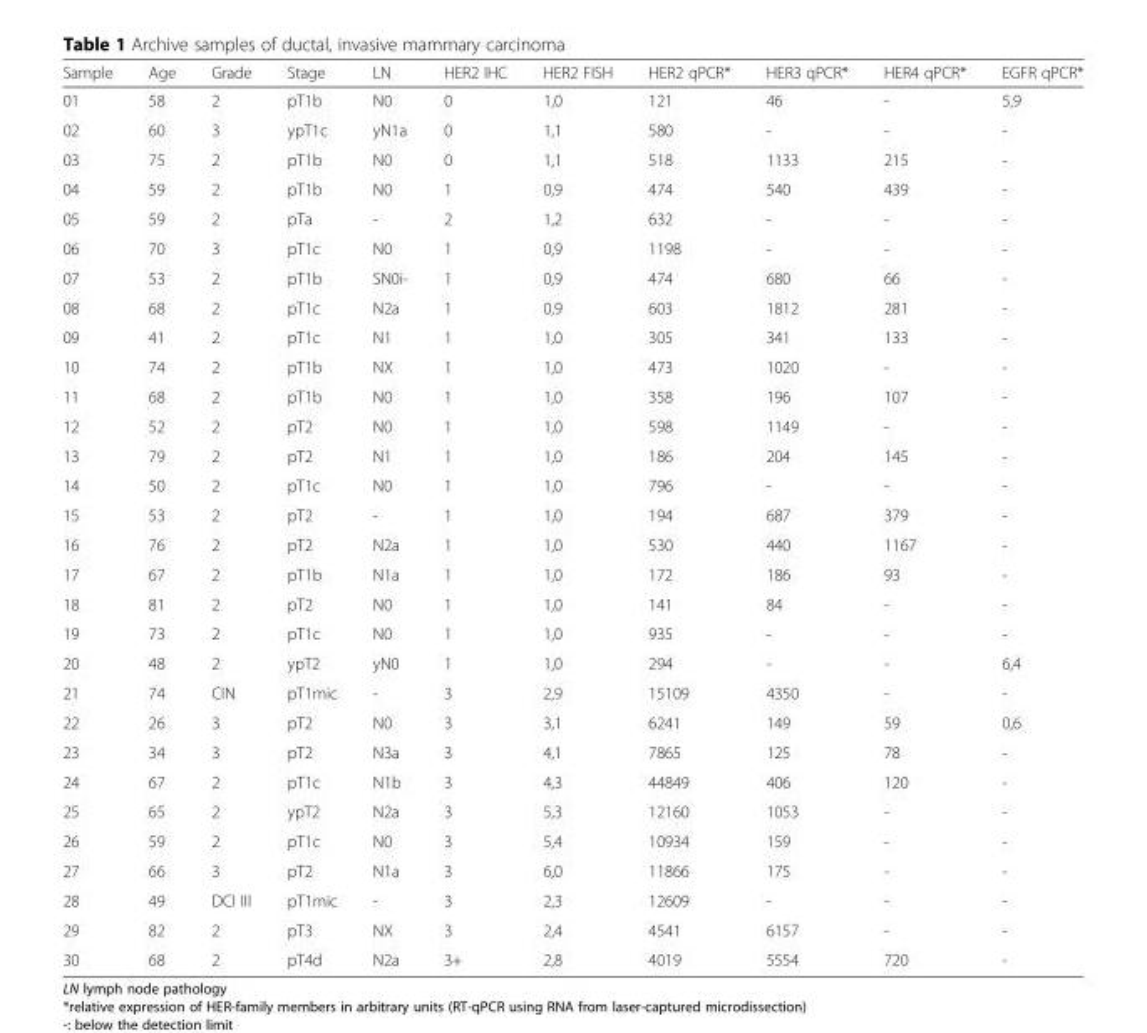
<table><thead><tr><td>Sample</td><td>Age</td><td>Grade</td><td>Stage</td><td>LN</td><td>HER2 IHC</td><td>HER2 FISH</td><td>HER2 qPCR*</td><td>HER3 qPCR*</td><td>HER4 qPCR*</td><td>EGFR qPCR*</td></tr></thead><tbody><tr><td>01</td><td>58</td><td>2</td><td>pT1b</td><td>N0</td><td>0</td><td>1,0</td><td>121</td><td>46</td><td>-</td><td>5,9</td></tr><tr><td>02</td><td>60</td><td>3</td><td>ypT1c</td><td>yN1a</td><td>0</td><td>1,1</td><td>580</td><td>-</td><td>-</td><td>-</td></tr><tr><td>03</td><td>75</td><td>2</td><td>pT1b</td><td>N0</td><td>0</td><td>1,1</td><td>518</td><td>1133</td><td>215</td><td>-</td></tr><tr><td>04</td><td>59</td><td>2</td><td>pT1b</td><td>N0</td><td>1</td><td>0,9</td><td>474</td><td>540</td><td>439</td><td>-</td></tr><tr><td>05</td><td>59</td><td>2</td><td>pTa</td><td>-</td><td>2</td><td>1,2</td><td>632</td><td>-</td><td>-</td><td>-</td></tr><tr><td>06</td><td>70</td><td>3</td><td>pT1c</td><td>N0</td><td>1</td><td>0,9</td><td>1198</td><td>-</td><td>-</td><td>-</td></tr><tr><td>07</td><td>53</td><td>2</td><td>pT1b</td><td>SN0i-</td><td>1</td><td>0,9</td><td>474</td><td>680</td><td>66</td><td>-</td></tr><tr><td>08</td><td>68</td><td>2</td><td>pT1c</td><td>N2a</td><td>1</td><td>0,9</td><td>603</td><td>1812</td><td>281</td><td>-</td></tr><tr><td>09</td><td>41</td><td>2</td><td>pT1c</td><td>N1</td><td>1</td><td>1,0</td><td>305</td><td>341</td><td>133</td><td>-</td></tr><tr><td>10</td><td>74</td><td>2</td><td>pT1b</td><td>NX</td><td>1</td><td>1,0</td><td>473</td><td>1020</td><td>-</td><td>-</td></tr><tr><td>11</td><td>68</td><td>2</td><td>pT1b</td><td>N0</td><td>1</td><td>1,0</td><td>358</td><td>196</td><td>107</td><td>-</td></tr><tr><td>12</td><td>52</td><td>2</td><td>pT2</td><td>N0</td><td>1</td><td>1,0</td><td>598</td><td>1149</td><td>-</td><td>-</td></tr><tr><td>13</td><td>79</td><td>2</td><td>pT2</td><td>N1</td><td>1</td><td>1,0</td><td>186</td><td>204</td><td>145</td><td>-</td></tr><tr><td>14</td><td>50</td><td>2</td><td>pT1c</td><td>N0</td><td>1</td><td>1,0</td><td>796</td><td>-</td><td>-</td><td>-</td></tr><tr><td>15</td><td>53</td><td>2</td><td>pT2</td><td>-</td><td>1</td><td>1,0</td><td>194</td><td>687</td><td>379</td><td>-</td></tr><tr><td>16</td><td>76</td><td>2</td><td>pT2</td><td>N2a</td><td>1</td><td>1,0</td><td>530</td><td>440</td><td>1167</td><td>-</td></tr><tr><td>17</td><td>67</td><td>2</td><td>pT1b</td><td>N1a</td><td>1</td><td>1,0</td><td>172</td><td>186</td><td>93</td><td>-</td></tr><tr><td>18</td><td>81</td><td>2</td><td>pT2</td><td>N0</td><td>1</td><td>1,0</td><td>141</td><td>84</td><td>-</td><td>-</td></tr><tr><td>19</td><td>73</td><td>2</td><td>pT1c</td><td>N0</td><td>1</td><td>1,0</td><td>935</td><td>-</td><td>-</td><td>-</td></tr><tr><td>20</td><td>48</td><td>2</td><td>ypT2</td><td>yN0</td><td>1</td><td>1,0</td><td>294</td><td>-</td><td>-</td><td>6,4</td></tr><tr><td>21</td><td>74</td><td>CIN</td><td>pT1mic</td><td>-</td><td>3</td><td>2,9</td><td>15109</td><td>4350</td><td>-</td><td>-</td></tr><tr><td>22</td><td>26</td><td>3</td><td>pT2</td><td>N0</td><td>3</td><td>3,1</td><td>6241</td><td>149</td><td>59</td><td>0,6</td></tr><tr><td>23</td><td>34</td><td>3</td><td>pT2</td><td>N3a</td><td>3</td><td>4,1</td><td>7865</td><td>125</td><td>78</td><td>-</td></tr><tr><td>24</td><td>67</td><td>2</td><td>pT1c</td><td>N1b</td><td>3</td><td>4,3</td><td>44849</td><td>406</td><td>120</td><td>-</td></tr><tr><td>25</td><td>65</td><td>2</td><td>ypT2</td><td>N2a</td><td>3</td><td>5,3</td><td>12160</td><td>1053</td><td>-</td><td>-</td></tr><tr><td>26</td><td>59</td><td>2</td><td>pT1c</td><td>N0</td><td>3</td><td>5,4</td><td>10934</td><td>159</td><td>-</td><td>-</td></tr><tr><td>27</td><td>66</td><td>3</td><td>pT2</td><td>N1a</td><td>3</td><td>6,0</td><td>11866</td><td>175</td><td>-</td><td>-</td></tr><tr><td>28</td><td>49</td><td>DCI III</td><td>pT1mic</td><td>-</td><td>3</td><td>2,3</td><td>12609</td><td>-</td><td>-</td><td>-</td></tr><tr><td>29</td><td>82</td><td>2</td><td>pT3</td><td>NX</td><td>3</td><td>2,4</td><td>4541</td><td>6157</td><td>-</td><td>-</td></tr><tr><td>30</td><td>68</td><td>2</td><td>pT4d</td><td>N2a</td><td>3+</td><td>2,8</td><td>4019</td><td>5554</td><td>720</td><td>-</td></tr></tbody></table>